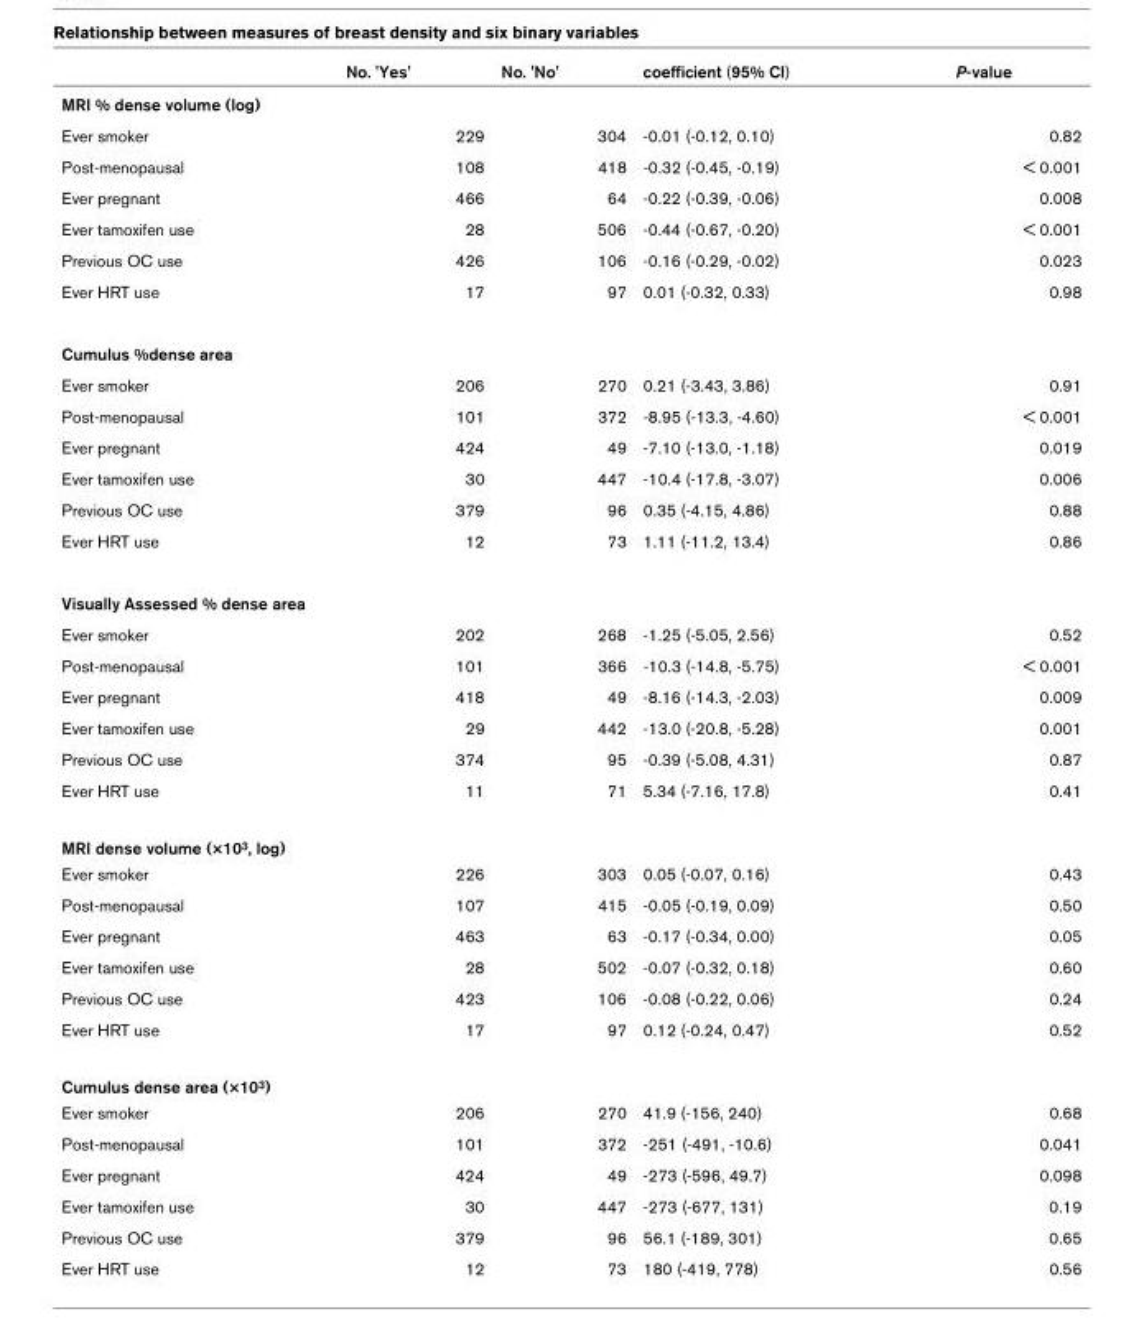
<table><thead><tr><td></td><td>No. &#x27;Yes&#x27;</td><td>No. &#x27;No&#x27;</td><td>coefficient (95% CI)</td><td>P-value</td></tr></thead><tbody><tr><td colspan="5">MRI % dense volume (log)</td></tr><tr><td>Ever smoker</td><td>229</td><td>304</td><td>-0.01 (-0.12, 0.10)</td><td>0.82</td></tr><tr><td>Post-menopausal</td><td>108</td><td>418</td><td>-0.32 (-0.45, -0.19)</td><td>&lt; 0.001</td></tr><tr><td>Ever pregnant</td><td>466</td><td>64</td><td>-0.22 (-0.39, -0.06)</td><td>0.008</td></tr><tr><td>Ever tamoxifen use</td><td>28</td><td>506</td><td>-0.44 (-0.67, -0.20)</td><td>&lt; 0.001</td></tr><tr><td>Previous OC use</td><td>426</td><td>106</td><td>-0.16 (-0.29, -0.02)</td><td>0.023</td></tr><tr><td>Ever HRT use</td><td>17</td><td>97</td><td>0.01 (-0.32, 0.33)</td><td>0.98</td></tr><tr><td colspan="5">Cumulus %dense area</td></tr><tr><td>Ever smoker</td><td>206</td><td>270</td><td>0.21 (-3.43, 3.86)</td><td>0.91</td></tr><tr><td>Post-menopausal</td><td>101</td><td>372</td><td>-8.95 (-13.3, -4.60)</td><td>&lt; 0.001</td></tr><tr><td>Ever pregnant</td><td>424</td><td>49</td><td>-7.10 (-13.0, -1.18)</td><td>0.019</td></tr><tr><td>Ever tamoxifen use</td><td>30</td><td>447</td><td>-10.4 (-17.8, -3.07)</td><td>0.006</td></tr><tr><td>Previous OC use</td><td>379</td><td>96</td><td>0.35 (-4.15, 4.86)</td><td>0.88</td></tr><tr><td>Ever HRT use</td><td>12</td><td>73</td><td>1.11 (-11.2, 13.4)</td><td>0.86</td></tr><tr><td colspan="5">Visually Assessed % dense area</td></tr><tr><td>Ever smoker</td><td>202</td><td>268</td><td>-1.25 (-5.05, 2.56)</td><td>0.52</td></tr><tr><td>Post-menopausal</td><td>101</td><td>366</td><td>-10.3 (-14.8, -5.75)</td><td>&lt; 0.001</td></tr><tr><td>Ever pregnant</td><td>418</td><td>49</td><td>-8.16 (-14.3, -2.03)</td><td>0.009</td></tr><tr><td>Ever tamoxifen use</td><td>29</td><td>442</td><td>-13.0 (-20.8, -5.28)</td><td>0.001</td></tr><tr><td>Previous OC use</td><td>374</td><td>95</td><td>-0.39 (-5.08, 4.31)</td><td>0.87</td></tr><tr><td>Ever HRT use</td><td>11</td><td>71</td><td>5.34 (-7.16, 17.8)</td><td>0.41</td></tr><tr><td colspan="5">MRI dense volume (×10<sup>3</sup>, log)</td></tr><tr><td>Ever smoker</td><td>226</td><td>303</td><td>0.05 (-0.07, 0.16)</td><td>0.43</td></tr><tr><td>Post-menopausal</td><td>107</td><td>415</td><td>-0.05 (-0.19, 0.09)</td><td>0.50</td></tr><tr><td>Ever pregnant</td><td>463</td><td>63</td><td>-0.17 (-0.34, 0.00)</td><td>0.05</td></tr><tr><td>Ever tamoxifen use</td><td>28</td><td>502</td><td>-0.07 (-0.32, 0.18)</td><td>0.60</td></tr><tr><td>Previous OC use</td><td>423</td><td>106</td><td>-0.08 (-0.22, 0.06)</td><td>0.24</td></tr><tr><td>Ever HRT use</td><td>17</td><td>97</td><td>0.12 (-0.24, 0.47)</td><td>0.52</td></tr><tr><td colspan="5">Cumulus dense area (×10<sup>3</sup>)</td></tr><tr><td>Ever smoker</td><td>206</td><td>270</td><td>41.9 (-156, 240)</td><td>0.68</td></tr><tr><td>Post-menopausal</td><td>101</td><td>372</td><td>-251 (-491, -10.6)</td><td>0.041</td></tr><tr><td>Ever pregnant</td><td>424</td><td>49</td><td>-273 (-596, 49.7)</td><td>0.098</td></tr><tr><td>Ever tamoxifen use</td><td>30</td><td>447</td><td>-273 (-677, 131)</td><td>0.19</td></tr><tr><td>Previous OC use</td><td>379</td><td>96</td><td>56.1 (-189, 301)</td><td>0.65</td></tr><tr><td>Ever HRT use</td><td>12</td><td>73</td><td>180 (-419, 778)</td><td>0.56</td></tr></tbody></table>